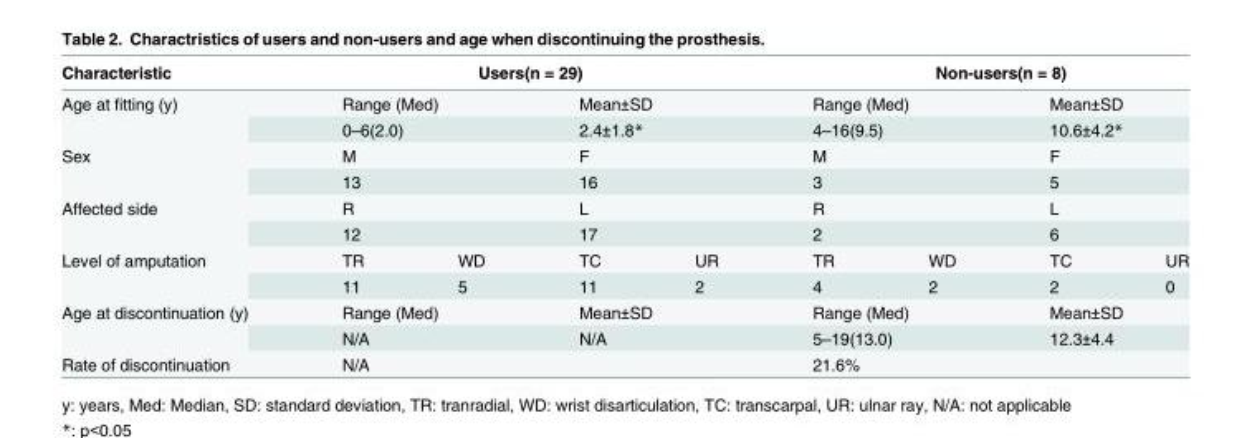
<table><thead><tr><td>Characteristic</td><td colspan="4">Users(n = 29)</td><td colspan="4">Non-users(n = 8)</td></tr></thead><tbody><tr><td rowspan="2">Age at fitting (y)</td><td colspan="2">Range (Med)</td><td colspan="2">Mean±SD</td><td colspan="2">Range (Med)</td><td colspan="2">Mean±SD</td></tr><tr><td colspan="2">0–6(2.0)</td><td colspan="2">2.4±1.8*</td><td colspan="2">4–16(9.5)</td><td colspan="2">10.6±4.2*</td></tr><tr><td rowspan="2">Sex</td><td colspan="2">M</td><td colspan="2">F</td><td colspan="2">M</td><td colspan="2">F</td></tr><tr><td colspan="2">13</td><td colspan="2">16</td><td colspan="2">3</td><td colspan="2">5</td></tr><tr><td rowspan="2">Affected side</td><td colspan="2">R</td><td colspan="2">L</td><td colspan="2">R</td><td colspan="2">L</td></tr><tr><td colspan="2">12</td><td colspan="2">17</td><td colspan="2">2</td><td colspan="2">6</td></tr><tr><td rowspan="2">Level of amputation</td><td>TR</td><td>WD</td><td>TC</td><td>UR</td><td>TR</td><td>WD</td><td>TC</td><td>UR</td></tr><tr><td>11</td><td>5</td><td>11</td><td>2</td><td>4</td><td>2</td><td>2</td><td>0</td></tr><tr><td rowspan="2">Age at discontinuation (y)</td><td colspan="2">Range (Med)</td><td colspan="2">Mean±SD</td><td colspan="2">Range (Med)</td><td colspan="2">Mean±SD</td></tr><tr><td colspan="2">N/A</td><td colspan="2">N/A</td><td colspan="2">5–19(13.0)</td><td colspan="2">12.3±4.4</td></tr><tr><td>Rate of discontinuation</td><td colspan="4">N/A</td><td colspan="4">21.6%</td></tr></tbody></table>